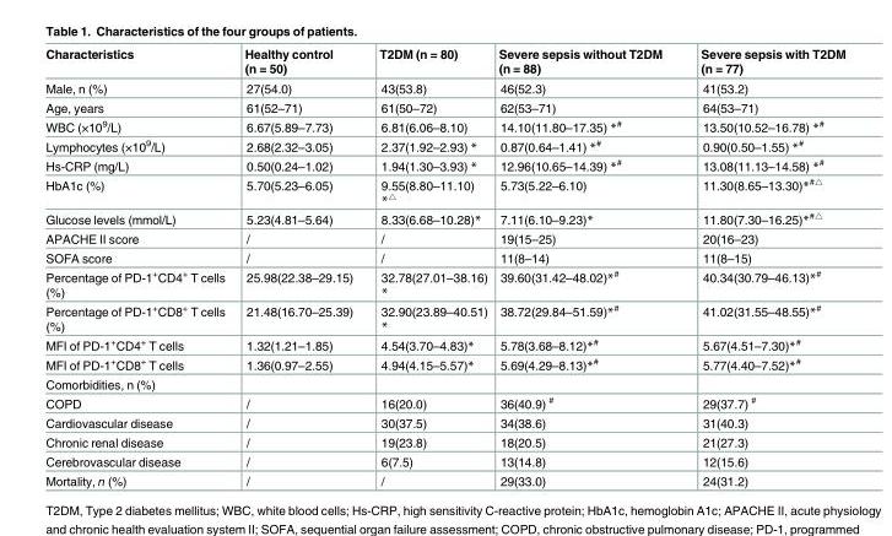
<table><thead><tr><td>Characteristics</td><td>Healthy control (n = 50)</td><td>T2DM (n = 80)</td><td>Severe sepsis without T2DM (n = 88)</td><td>Severe sepsis with T2DM (n = 77)</td></tr></thead><tbody><tr><td>Male, n (%)</td><td>27(54.0)</td><td>43(53.8)</td><td>46(52.3)</td><td>41(53.2)</td></tr><tr><td>Age, years</td><td>61(52–71)</td><td>61(50–72)</td><td>62(53–71)</td><td>64(53–71)</td></tr><tr><td>WBC (×10<sup>9</sup>/L)</td><td>6.67(5.89–7.73)</td><td>6.81(6.06–8.10)</td><td>14.10(11.80–17.35) *<sup>#</sup></td><td>13.50(10.52–16.78) *<sup>#</sup></td></tr><tr><td>Lymphocytes (×10<sup>9</sup>/L)</td><td>2.68(2.32–3.05)</td><td>2.37(1.92–2.93) *</td><td>0.87(0.64–1.41) *<sup>#</sup></td><td>0.90(0.50–1.55) *<sup>#</sup></td></tr><tr><td>Hs-CRP (mg/L)</td><td>0.50(0.24–1.02)</td><td>1.94(1.30–3.93) *</td><td>12.96(10.65–14.39) *<sup>#</sup></td><td>13.08(11.13–14.58) *<sup>#</sup></td></tr><tr><td>HbA1c (%)</td><td>5.70(5.23–6.05)</td><td>9.55(8.80–11.10) *<sup>△</sup></td><td>5.73(5.22–6.10)</td><td>11.30(8.65–13.30)*<sup>#△</sup></td></tr><tr><td>Glucose levels (mmol/L)</td><td>5.23(4.81–5.64)</td><td>8.33(6.68–10.28)*</td><td>7.11(6.10–9.23)*</td><td>11.80(7.30–16.25)*<sup>#△</sup></td></tr><tr><td>APACHE II score</td><td>/</td><td>/</td><td>19(15–25)</td><td>20(16–23)</td></tr><tr><td>SOFA score</td><td>/</td><td>/</td><td>11(8–14)</td><td>11(8–15)</td></tr><tr><td>Percentage of PD-1<sup>+</sup>CD4<sup>+</sup> T cells (%)</td><td>25.98(22.38–29.15)</td><td>32.78(27.01–38.16) *</td><td>39.60(31.42–48.02)*<sup>#</sup></td><td>40.34(30.79–46.13)*<sup>#</sup></td></tr><tr><td>Percentage of PD-1<sup>+</sup>CD8<sup>+</sup> T cells (%)</td><td>21.48(16.70–25.39)</td><td>32.90(23.89–40.51) *</td><td>38.72(29.84–51.59)*<sup>#</sup></td><td>41.02(31.55–48.55)*<sup>#</sup></td></tr><tr><td>MFI of PD-1<sup>+</sup>CD4<sup>+</sup> T cells</td><td>1.32(1.21–1.85)</td><td>4.54(3.70–4.83)*</td><td>5.78(3.68–8.12)*<sup>#</sup></td><td>5.67(4.51–7.30)*<sup>#</sup></td></tr><tr><td>MFI of PD-1<sup>+</sup>CD8<sup>+</sup> T cells</td><td>1.36(0.97–2.55)</td><td>4.94(4.15–5.57)*</td><td>5.69(4.29–8.13)*<sup>#</sup></td><td>5.77(4.40–7.52)*<sup>#</sup></td></tr><tr><td colspan="5">Comorbidities, n (%)</td></tr><tr><td>COPD</td><td>/</td><td>16(20.0)</td><td>36(40.9) <sup>#</sup></td><td>29(37.7) <sup>#</sup></td></tr><tr><td>Cardiovascular disease</td><td>/</td><td>30(37.5)</td><td>34(38.6)</td><td>31(40.3)</td></tr><tr><td>Chronic renal disease</td><td>/</td><td>19(23.8)</td><td>18(20.5)</td><td>21(27.3)</td></tr><tr><td>Cerebrovascular disease</td><td>/</td><td>6(7.5)</td><td>13(14.8)</td><td>12(15.6)</td></tr><tr><td>Mortality, n (%)</td><td>/</td><td>/</td><td>29(33.0)</td><td>24(31.2)</td></tr></tbody></table>